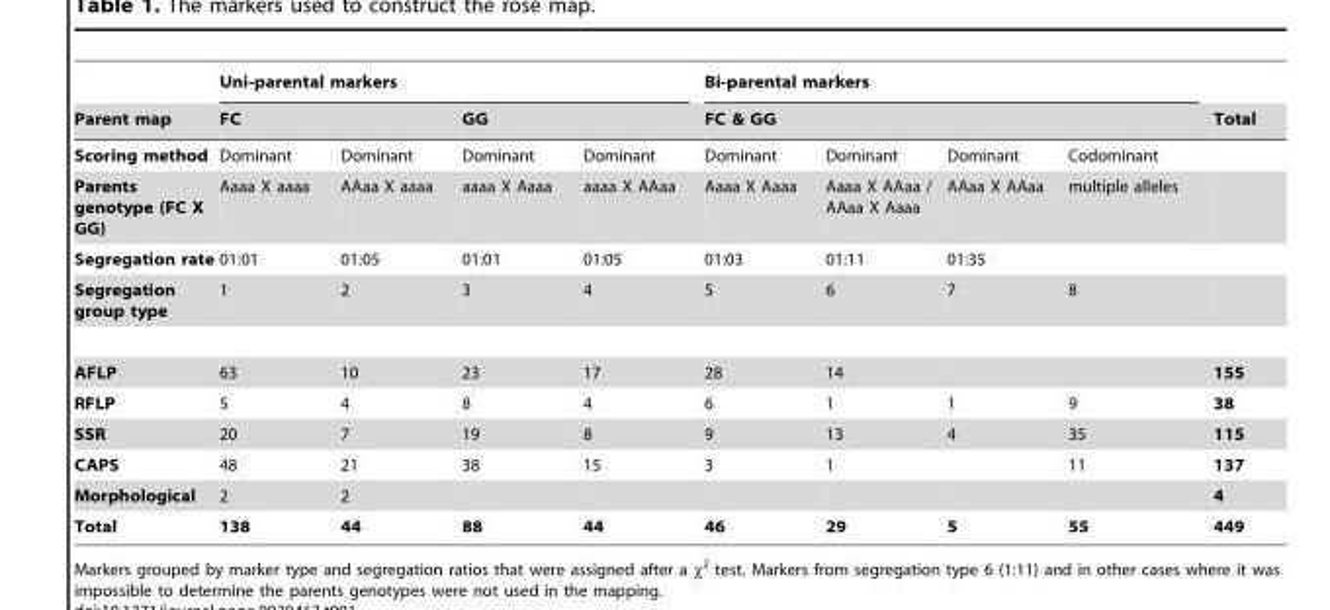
<table><thead><tr><td rowspan="3">Parent map Scoring method</td><td colspan="4">Uni-parental markers</td><td rowspan="2" colspan="4">Bi-parental markers FC &amp; GG</td><td rowspan="3">Total</td></tr><tr><td colspan="2">FC</td><td colspan="2">GG</td></tr><tr><td>Dominant</td><td>Dominant</td><td>Dominant</td><td>Dominant</td><td>Dominant</td><td>Dominant</td><td>Dominant</td><td>Codominant</td></tr></thead><tbody><tr><td>Parents genotype (FC X GG)</td><td>Aaaa X aaaa</td><td>AAaa X aaaa</td><td>aaaa X Aaaa</td><td>aaaa X AAaa</td><td>Aaaa X Aaaa</td><td>Aaaa X AAaa / AAaa X Aaaa</td><td>AAaa X AAaa</td><td>multiple alleles</td><td></td></tr><tr><td>Segregation rate</td><td>01:01</td><td>01:05</td><td>01:01</td><td>01:05</td><td>01:03</td><td>01:11</td><td>01:35</td><td></td><td></td></tr><tr><td>Segregation group type</td><td>1</td><td>2</td><td>3</td><td>4</td><td>5</td><td>6</td><td>7</td><td>8</td><td></td></tr><tr><td>AFLP</td><td>63</td><td>10</td><td>23</td><td>17</td><td>28</td><td>14</td><td></td><td></td><td>155</td></tr><tr><td>RFLP</td><td>5</td><td>4</td><td>8</td><td>4</td><td>6</td><td>1</td><td>1</td><td>9</td><td>38</td></tr><tr><td>SSR</td><td>20</td><td>7</td><td>19</td><td>8</td><td>9</td><td>13</td><td>4</td><td>35</td><td>115</td></tr><tr><td>CAPS</td><td>48</td><td>21</td><td>38</td><td>15</td><td>3</td><td>1</td><td></td><td>11</td><td>137</td></tr><tr><td>Morphological</td><td>2</td><td>2</td><td></td><td></td><td></td><td></td><td></td><td></td><td>4</td></tr><tr><td>Total</td><td>138</td><td>44</td><td>88</td><td>44</td><td>46</td><td>29</td><td>5</td><td>55</td><td>449</td></tr></tbody></table>